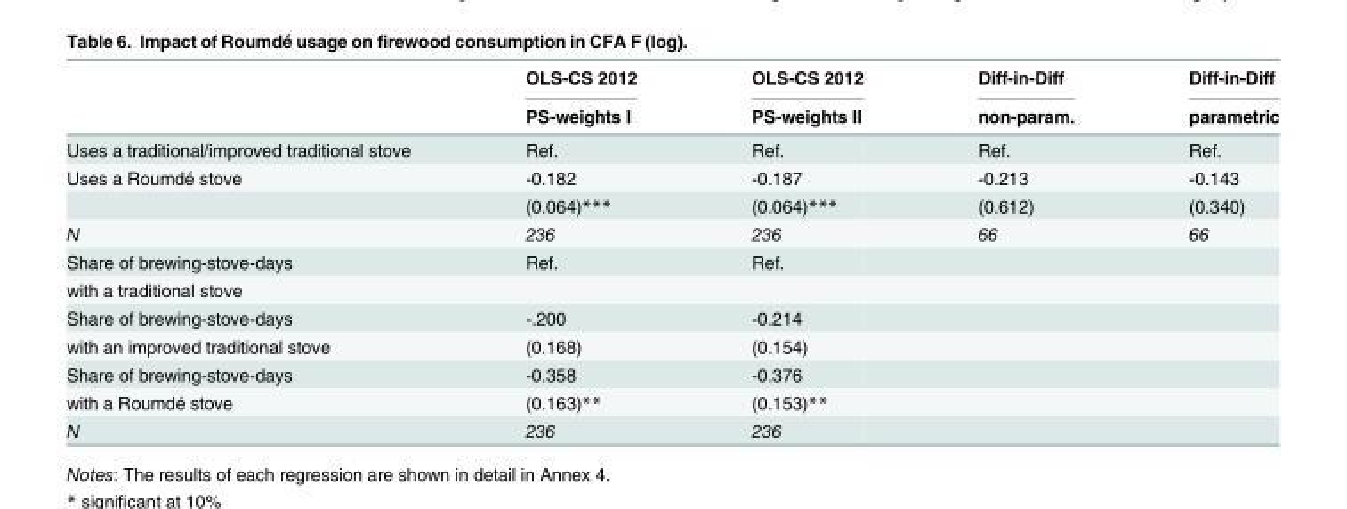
<table><thead><tr><td rowspan="2"></td><td rowspan="2">OLS-CS 2012 PS-weights I</td><td rowspan="2">OLS-CS 2012 PS-weights II</td><td rowspan="2">Diff-in-Diff non-param.</td><td rowspan="2">Diff-in-Diff parametric</td></tr><tr></tr></thead><tbody><tr><td>Uses a traditional/improved traditional stove</td><td>Ref.</td><td>Ref.</td><td>Ref.</td><td>Ref.</td></tr><tr><td rowspan="2">Uses a Roumdé stove</td><td>-0.182</td><td>-0.187</td><td>-0.213</td><td>-0.143</td></tr><tr><td>(0.064)***</td><td>(0.064)***</td><td>(0.612)</td><td>(0.340)</td></tr><tr><td>N</td><td>236</td><td>236</td><td>66</td><td>66</td></tr><tr><td>Share of brewing-stove-days</td><td>Ref.</td><td>Ref.</td><td></td><td></td></tr><tr><td colspan="5">with a traditional stove</td></tr><tr><td>Share of brewing-stove-days</td><td>-.200</td><td>-0.214</td><td></td><td></td></tr><tr><td>with an improved traditional stove</td><td>(0.168)</td><td>(0.154)</td><td></td><td></td></tr><tr><td>Share of brewing-stove-days</td><td>-0.358</td><td>-0.376</td><td></td><td></td></tr><tr><td>with a Roumdé stove</td><td>(0.163)**</td><td>(0.153)**</td><td></td><td></td></tr><tr><td>N</td><td>236</td><td>236</td><td></td><td></td></tr></tbody></table>